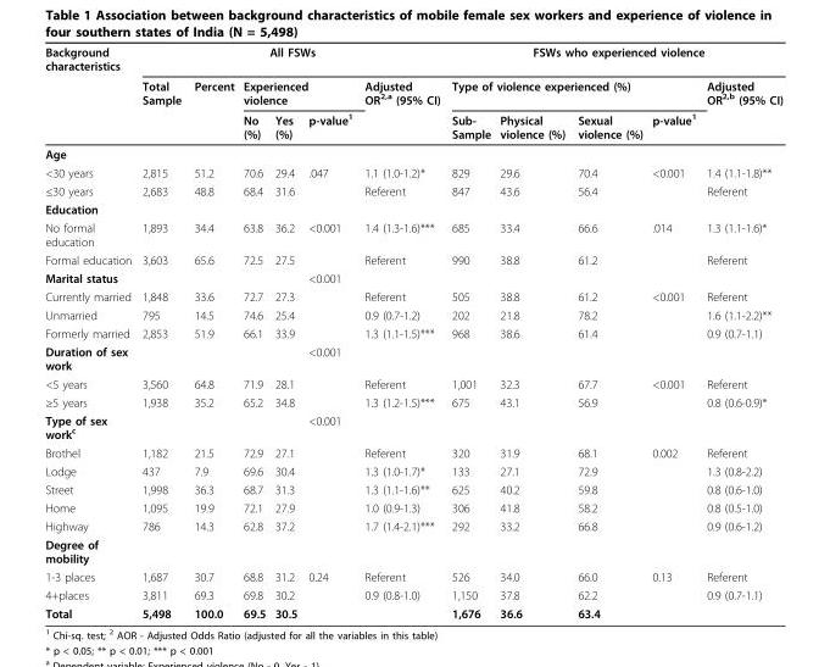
<table><thead><tr><td rowspan="3">Background characteristics</td><td colspan="6">All FSWs</td><td colspan="5">FSWs who experienced violence</td></tr><tr><td rowspan="2">Total Sample</td><td rowspan="2">Percent</td><td colspan="3">Experienced violence</td><td rowspan="2">Adjusted OR<sup>2,a</sup> (95% CI)</td><td colspan="4">Type of violence experienced (%)</td><td rowspan="2">Adjusted OR<sup>2,b</sup> (95% CI)</td></tr><tr><td>No (%)</td><td>Yes (%)</td><td>p-value<sup>1</sup></td><td>Sub- Sample</td><td>Physical violence (%)</td><td>Sexual violence (%)</td><td>p-value<sup>1</sup></td></tr></thead><tbody><tr><td colspan="12">Age</td></tr><tr><td>&lt;30 years</td><td>2,815</td><td>51.2</td><td>70.6</td><td>29.4</td><td>.047</td><td>1.1 (1.0-1.2)*</td><td>829</td><td>29.6</td><td>70.4</td><td>&lt;0.001</td><td>1.4 (1.1-1.8)**</td></tr><tr><td>≤30 years</td><td>2,683</td><td>48.8</td><td>68.4</td><td>31.6</td><td></td><td>Referent</td><td>847</td><td>43.6</td><td>56.4</td><td></td><td>Referent</td></tr><tr><td colspan="12">Education</td></tr><tr><td>No formal education</td><td>1,893</td><td>34.4</td><td>63.8</td><td>36.2</td><td>&lt;0.001</td><td>1.4 (1.3-1.6)***</td><td>685</td><td>33.4</td><td>66.6</td><td>.014</td><td>1.3 (1.1-1.6)*</td></tr><tr><td>Formal education</td><td>3,603</td><td>65.6</td><td>72.5</td><td>27.5</td><td></td><td>Referent</td><td>990</td><td>38.8</td><td>61.2</td><td></td><td>Referent</td></tr><tr><td>Marital status</td><td></td><td></td><td></td><td></td><td>&lt;0.001</td><td></td><td></td><td></td><td></td><td></td><td></td></tr><tr><td>Currently married</td><td>1,848</td><td>33.6</td><td>72.7</td><td>27.3</td><td></td><td>Referent</td><td>505</td><td>38.8</td><td>61.2</td><td>&lt;0.001</td><td>Referent</td></tr><tr><td>Unmarried</td><td>795</td><td>14.5</td><td>74.6</td><td>25.4</td><td></td><td>0.9 (0.7-1.2)</td><td>202</td><td>21.8</td><td>78.2</td><td></td><td>1.6 (1.1-2.2)**</td></tr><tr><td>Formerly married</td><td>2,853</td><td>51.9</td><td>66.1</td><td>33.9</td><td></td><td>1.3 (1.1-1.5)***</td><td>968</td><td>38.6</td><td>61.4</td><td></td><td>0.9 (0.7-1.1)</td></tr><tr><td>Duration of sex work</td><td></td><td></td><td></td><td></td><td>&lt;0.001</td><td></td><td></td><td></td><td></td><td></td><td></td></tr><tr><td>&lt;5 years</td><td>3,560</td><td>64.8</td><td>71.9</td><td>28.1</td><td></td><td>Referent</td><td>1,001</td><td>32.3</td><td>67.7</td><td>&lt;0.001</td><td>Referent</td></tr><tr><td>≥5 years</td><td>1,938</td><td>35.2</td><td>65.2</td><td>34.8</td><td></td><td>1.3 (1.2-1.5)***</td><td>675</td><td>43.1</td><td>56.9</td><td></td><td>0.8 (0.6-0.9)*</td></tr><tr><td>Type of sex work<sup>c</sup></td><td></td><td></td><td></td><td></td><td>&lt;0.001</td><td></td><td></td><td></td><td></td><td></td><td></td></tr><tr><td>Brothel</td><td>1,182</td><td>21.5</td><td>72.9</td><td>27.1</td><td></td><td>Referent</td><td>320</td><td>31.9</td><td>68.1</td><td>0.002</td><td>Referent</td></tr><tr><td>Lodge</td><td>437</td><td>7.9</td><td>69.6</td><td>30.4</td><td></td><td>1.3 (1.0-1.7)*</td><td>133</td><td>27.1</td><td>72.9</td><td></td><td>1.3 (0.8-2.2)</td></tr><tr><td>Street</td><td>1,998</td><td>36.3</td><td>68.7</td><td>31.3</td><td></td><td>1.3 (1.1-1.6)**</td><td>625</td><td>40.2</td><td>59.8</td><td></td><td>0.8 (0.6-1.0)</td></tr><tr><td>Home</td><td>1,095</td><td>19.9</td><td>72.1</td><td>27.9</td><td></td><td>1.0 (0.9-1.3)</td><td>306</td><td>41.8</td><td>58.2</td><td></td><td>0.8 (0.5-1.0)</td></tr><tr><td>Highway</td><td>786</td><td>14.3</td><td>62.8</td><td>37.2</td><td></td><td>1.7 (1.4-2.1)***</td><td>292</td><td>33.2</td><td>66.8</td><td></td><td>0.9 (0.6-1.2)</td></tr><tr><td colspan="12">Degree of mobility</td></tr><tr><td>1-3 places</td><td>1,687</td><td>30.7</td><td>68.8</td><td>31.2</td><td>0.24</td><td>Referent</td><td>526</td><td>34.0</td><td>66.0</td><td>0.13</td><td>Referent</td></tr><tr><td>4+places</td><td>3,811</td><td>69.3</td><td>69.8</td><td>30.2</td><td></td><td>0.9 (0.8-1.0)</td><td>1,150</td><td>37.8</td><td>62.2</td><td></td><td>0.9 (0.7-1.1)</td></tr><tr><td>Total</td><td>5,498</td><td>100.0</td><td>69.5</td><td>30.5</td><td></td><td></td><td>1,676</td><td>36.6</td><td>63.4</td><td></td><td></td></tr></tbody></table>